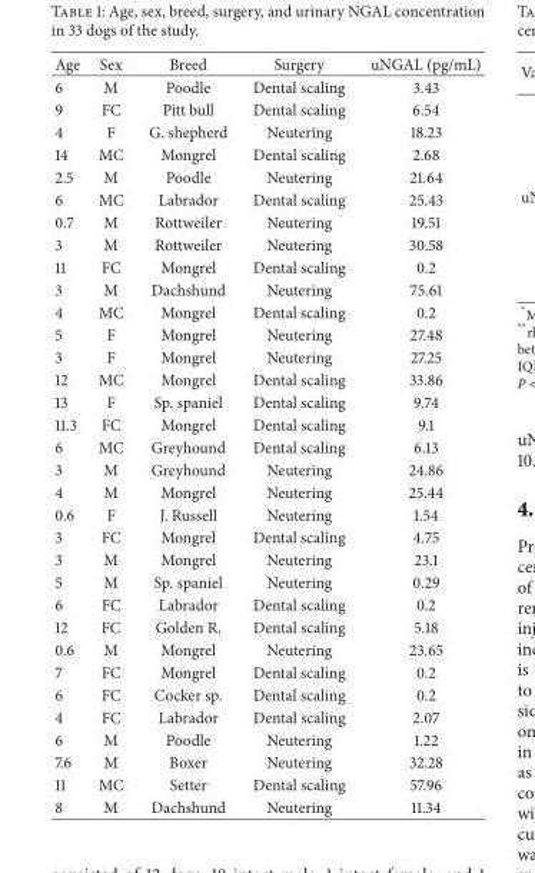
<table><thead><tr><td>Age</td><td>Sex</td><td>Breed</td><td>Surgery</td><td>uNGAL (pg/mL)</td></tr></thead><tbody><tr><td>6</td><td>M</td><td>Poodle</td><td>Dental scaling</td><td>3.43</td></tr><tr><td>9</td><td>FC</td><td>Pitt bull</td><td>Dental scaling</td><td>6.54</td></tr><tr><td>4</td><td>F</td><td>G. shepherd</td><td>Neutering</td><td>18.23</td></tr><tr><td>14</td><td>MC</td><td>Mongrel</td><td>Dental scaling</td><td>2.68</td></tr><tr><td>2.5</td><td>M</td><td>Poodle</td><td>Neutering</td><td>21.64</td></tr><tr><td>6</td><td>MC</td><td>Labrador</td><td>Dental scaling</td><td>25.43</td></tr><tr><td>0.7</td><td>M</td><td>Rottweiler</td><td>Neutering</td><td>19.51</td></tr><tr><td>3</td><td>M</td><td>Rottweiler</td><td>Neutering</td><td>30.58</td></tr><tr><td>11</td><td>FC</td><td>Mongrel</td><td>Dental scaling</td><td>0.2</td></tr><tr><td>3</td><td>M</td><td>Dachshund</td><td>Neutering</td><td>75.61</td></tr><tr><td>4</td><td>MC</td><td>Mongrel</td><td>Dental scaling</td><td>0.2</td></tr><tr><td>5</td><td>F</td><td>Mongrel</td><td>Neutering</td><td>27.48</td></tr><tr><td>3</td><td>F</td><td>Mongrel</td><td>Neutering</td><td>27.25</td></tr><tr><td>12</td><td>MC</td><td>Mongrel</td><td>Dental scaling</td><td>33.86</td></tr><tr><td>13</td><td>F</td><td>Sp. spaniel</td><td>Dental scaling</td><td>9.74</td></tr><tr><td>11.3</td><td>FC</td><td>Mongrel</td><td>Dental scaling</td><td>9.1</td></tr><tr><td>6</td><td>MC</td><td>Greyhound</td><td>Dental scaling</td><td>6.13</td></tr><tr><td>3</td><td>M</td><td>Greyhound</td><td>Neutering</td><td>24.86</td></tr><tr><td>4</td><td>M</td><td>Mongrel</td><td>Neutering</td><td>25.44</td></tr><tr><td>0.6</td><td>F</td><td>J. Russell</td><td>Neutering</td><td>1.54</td></tr><tr><td>3</td><td>FC</td><td>Mongrel</td><td>Dental scaling</td><td>4.75</td></tr><tr><td>3</td><td>M</td><td>Mongrel</td><td>Neutering</td><td>23.1</td></tr><tr><td>5</td><td>M</td><td>Sp. spaniel</td><td>Neutering</td><td>0.29</td></tr><tr><td>6</td><td>FC</td><td>Labrador</td><td>Dental scaling</td><td>0.2</td></tr><tr><td>12</td><td>FC</td><td>Golden R.</td><td>Dental scaling</td><td>5.18</td></tr><tr><td>0.6</td><td>M</td><td>Mongrel</td><td>Neutering</td><td>23.65</td></tr><tr><td>7</td><td>FC</td><td>Mongrel</td><td>Dental scaling</td><td>0.2</td></tr><tr><td>6</td><td>FC</td><td>Cocker sp.</td><td>Dental scaling</td><td>0.2</td></tr><tr><td>4</td><td>FC</td><td>Labrador</td><td>Dental scaling</td><td>2.07</td></tr><tr><td>6</td><td>M</td><td>Poodle</td><td>Neutering</td><td>1.22</td></tr><tr><td>7.6</td><td>M</td><td>Boxer</td><td>Neutering</td><td>32.28</td></tr><tr><td>11</td><td>MC</td><td>Setter</td><td>Dental scaling</td><td>57.96</td></tr><tr><td>8</td><td>M</td><td>Dachshund</td><td>Neutering</td><td>11.34</td></tr></tbody></table>